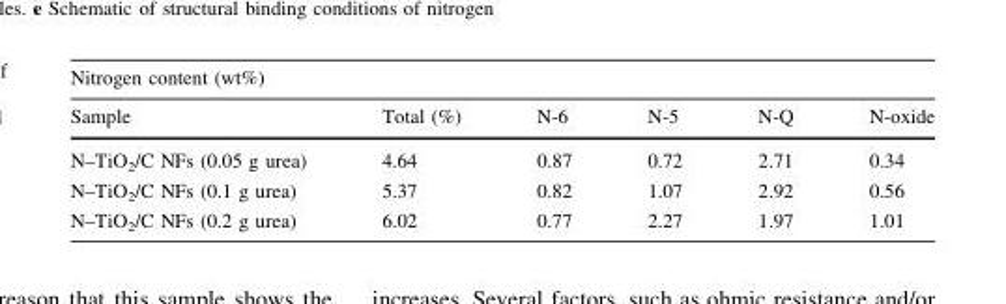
<table><thead><tr><td colspan="6">Nitrogen content (wt%)</td></tr><tr><td>Sample</td><td>Total (%)</td><td>N-6</td><td>N-5</td><td>N-Q</td><td>N-oxide</td></tr></thead><tbody><tr><td>N–TiO<sub>2</sub>/C NFs (0.05 g urea)</td><td>4.64</td><td>0.87</td><td>0.72</td><td>2.71</td><td>0.34</td></tr><tr><td>N–TiO<sub>2</sub>/C NFs (0.1 g urea)</td><td>5.37</td><td>0.82</td><td>1.07</td><td>2.92</td><td>0.56</td></tr><tr><td>N–TiO<sub>2</sub>/C NFs (0.2 g urea)</td><td>6.02</td><td>0.77</td><td>2.27</td><td>1.97</td><td>1.01</td></tr></tbody></table>